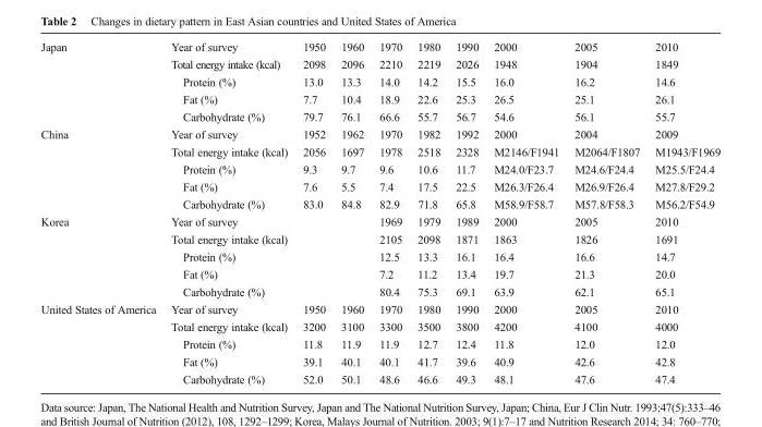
<table><tbody><tr><td rowspan="5">Japan</td><td>Year of survey</td><td>1950</td><td>1960</td><td>1970</td><td>1980</td><td>1990</td><td>2000</td><td>2005</td><td>2010</td></tr><tr><td>Total energy intake (kcal)</td><td>2098</td><td>2096</td><td>2210</td><td>2219</td><td>2026</td><td>1948</td><td>1904</td><td>1849</td></tr><tr><td>Protein (%)</td><td>13.0</td><td>13.3</td><td>14.0</td><td>14.2</td><td>15.5</td><td>16.0</td><td>16.2</td><td>14.6</td></tr><tr><td>Fat (%)</td><td>7.7</td><td>10.4</td><td>18.9</td><td>22.6</td><td>25.3</td><td>26.5</td><td>25.1</td><td>26.1</td></tr><tr><td>Carbohydrate (%)</td><td>79.7</td><td>76.1</td><td>66.6</td><td>55.7</td><td>56.7</td><td>54.6</td><td>56.1</td><td>55.7</td></tr><tr><td rowspan="5">China</td><td>Year of survey</td><td>1952</td><td>1962</td><td>1970</td><td>1982</td><td>1992</td><td>2000</td><td>2004</td><td>2009</td></tr><tr><td>Total energy intake (kcal)</td><td>2056</td><td>1697</td><td>1978</td><td>2518</td><td>2328</td><td>M2146/F1941</td><td>M2064/F1807</td><td>M1943/F1969</td></tr><tr><td>Protein (%)</td><td>9.3</td><td>9.7</td><td>9.6</td><td>10.6</td><td>11.7</td><td>M24.0/F23.7</td><td>M24.6/F24.4</td><td>M25.5/F24.4</td></tr><tr><td>Fat (%)</td><td>7.6</td><td>5.5</td><td>7.4</td><td>17.5</td><td>22.5</td><td>M26.3/F26.4</td><td>M26.9/F26.4</td><td>M27.8/F29.2</td></tr><tr><td>Carbohydrate (%)</td><td>83.0</td><td>84.8</td><td>82.9</td><td>71.8</td><td>65.8</td><td>M58.9/F58.7</td><td>M57.8/F58.3</td><td>M56.2/F54.9</td></tr><tr><td rowspan="5">Korea</td><td>Year of survey</td><td></td><td></td><td>1969</td><td>1979</td><td>1989</td><td>2000</td><td>2005</td><td>2010</td></tr><tr><td>Total energy intake (kcal)</td><td></td><td></td><td>2105</td><td>2098</td><td>1871</td><td>1863</td><td>1826</td><td>1691</td></tr><tr><td>Protein (%)</td><td></td><td></td><td>12.5</td><td>13.3</td><td>16.1</td><td>16.4</td><td>16.6</td><td>14.7</td></tr><tr><td>Fat (%)</td><td></td><td></td><td>7.2</td><td>11.2</td><td>13.4</td><td>19.7</td><td>21.3</td><td>20.0</td></tr><tr><td>Carbohydrate (%)</td><td></td><td></td><td>80.4</td><td>75.3</td><td>69.1</td><td>63.9</td><td>62.1</td><td>65.1</td></tr><tr><td rowspan="5">United States of America</td><td>Year of survey</td><td>1950</td><td>1960</td><td>1970</td><td>1980</td><td>1990</td><td>2000</td><td>2005</td><td>2010</td></tr><tr><td>Total energy intake (kcal)</td><td>3200</td><td>3100</td><td>3300</td><td>3500</td><td>3800</td><td>4200</td><td>4100</td><td>4000</td></tr><tr><td>Protein (%)</td><td>11.8</td><td>11.9</td><td>11.9</td><td>12.7</td><td>12.4</td><td>11.8</td><td>12.0</td><td>12.0</td></tr><tr><td>Fat (%)</td><td>39.1</td><td>40.1</td><td>40.1</td><td>41.7</td><td>39.6</td><td>40.9</td><td>42.6</td><td>42.8</td></tr><tr><td>Carbohydrate (%)</td><td>52.0</td><td>50.1</td><td>48.6</td><td>46.6</td><td>49.3</td><td>48.1</td><td>47.6</td><td>47.4</td></tr></tbody></table>